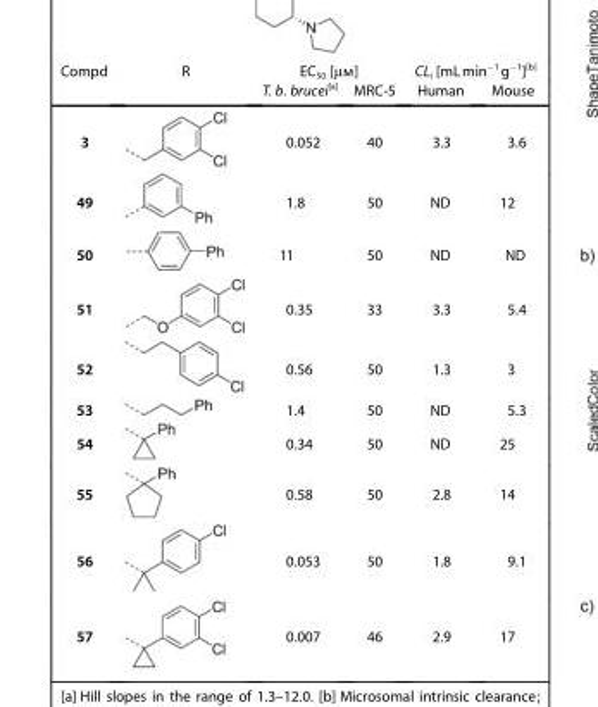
<table><thead><tr><td rowspan="2">Compd</td><td rowspan="2">R</td><td colspan="2">EC<sub>50</sub> [μm]</td><td colspan="2">CL<sub>i</sub> [mLmin<sup>−1</sup>g<sup>−1</sup>][b]</td></tr><tr><td>T. b. brucei[a]</td><td>MRC-5</td><td>Human</td><td>Mouse</td></tr></thead><tbody><tr><td>3</td><td></td><td>0.052</td><td>40</td><td>3.3</td><td>3.6</td></tr><tr><td>49</td><td></td><td>1.8</td><td>50</td><td>ND</td><td>12</td></tr><tr><td>50</td><td></td><td>11</td><td>50</td><td>ND</td><td>ND</td></tr><tr><td>51</td><td></td><td>0.35</td><td>33</td><td>3.3</td><td>5.4</td></tr><tr><td>52</td><td></td><td>0.56</td><td>50</td><td>1.3</td><td>3</td></tr><tr><td>53</td><td></td><td>1.4</td><td>50</td><td>ND</td><td>5.3</td></tr><tr><td>54</td><td></td><td>0.34</td><td>50</td><td>ND</td><td>25</td></tr><tr><td>55</td><td></td><td>0.58</td><td>50</td><td>2.8</td><td>14</td></tr><tr><td>56</td><td></td><td>0.053</td><td>50</td><td>1.8</td><td>9.1</td></tr><tr><td>57</td><td></td><td>0.007</td><td>46</td><td>2.9</td><td>17</td></tr></tbody></table>